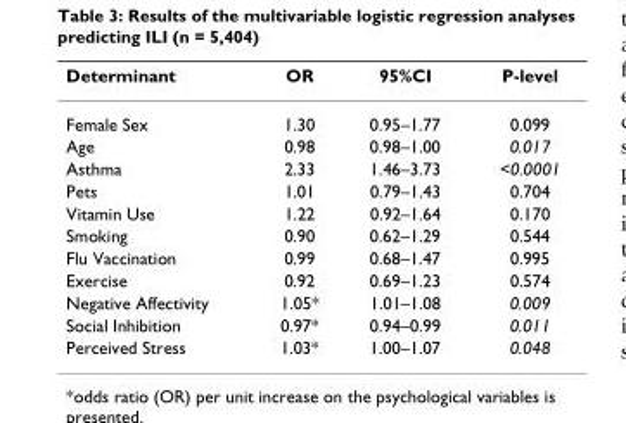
<table><thead><tr><td>Determinant</td><td>OR</td><td>95%CI</td><td>P-level</td></tr></thead><tbody><tr><td>Female Sex</td><td>1.30</td><td>0.95–1.77</td><td>0.099</td></tr><tr><td>Age</td><td>0.98</td><td>0.98–1.00</td><td>0.017</td></tr><tr><td>Asthma</td><td>2.33</td><td>1.46–3.73</td><td>&lt;0.0001</td></tr><tr><td>Pets</td><td>1.01</td><td>0.79–1.43</td><td>0.704</td></tr><tr><td>Vitamin Use</td><td>1.22</td><td>0.92–1.64</td><td>0.170</td></tr><tr><td>Smoking</td><td>0.90</td><td>0.62–1.29</td><td>0.544</td></tr><tr><td>Flu Vaccination</td><td>0.99</td><td>0.68–1.47</td><td>0.995</td></tr><tr><td>Exercise</td><td>0.92</td><td>0.69–1.23</td><td>0.574</td></tr><tr><td>Negative Affectivity</td><td>1.05*</td><td>1.01–1.08</td><td>0.009</td></tr><tr><td>Social Inhibition</td><td>0.97*</td><td>0.94–0.99</td><td>0.011</td></tr><tr><td>Perceived Stress</td><td>1.03*</td><td>1.00–1.07</td><td>0.048</td></tr></tbody></table>